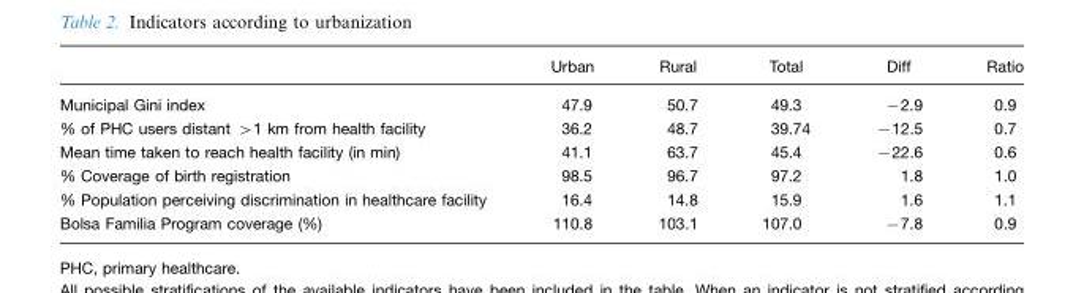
<table><thead><tr><td></td><td>Urban</td><td>Rural</td><td>Total</td><td>Diff</td><td>Ratio</td></tr></thead><tbody><tr><td>Municipal Gini index</td><td>47.9</td><td>50.7</td><td>49.3</td><td>−2.9</td><td>0.9</td></tr><tr><td>% of PHC users distant &gt;1 km from health facility</td><td>36.2</td><td>48.7</td><td>39.74</td><td>−12.5</td><td>0.7</td></tr><tr><td>Mean time taken to reach health facility (in min)</td><td>41.1</td><td>63.7</td><td>45.4</td><td>−22.6</td><td>0.6</td></tr><tr><td>% Coverage of birth registration</td><td>98.5</td><td>96.7</td><td>97.2</td><td>1.8</td><td>1.0</td></tr><tr><td>% Population perceiving discrimination in healthcare facility</td><td>16.4</td><td>14.8</td><td>15.9</td><td>1.6</td><td>1.1</td></tr><tr><td>Bolsa Familia Program coverage (%)</td><td>110.8</td><td>103.1</td><td>107.0</td><td>−7.8</td><td>0.9</td></tr></tbody></table>